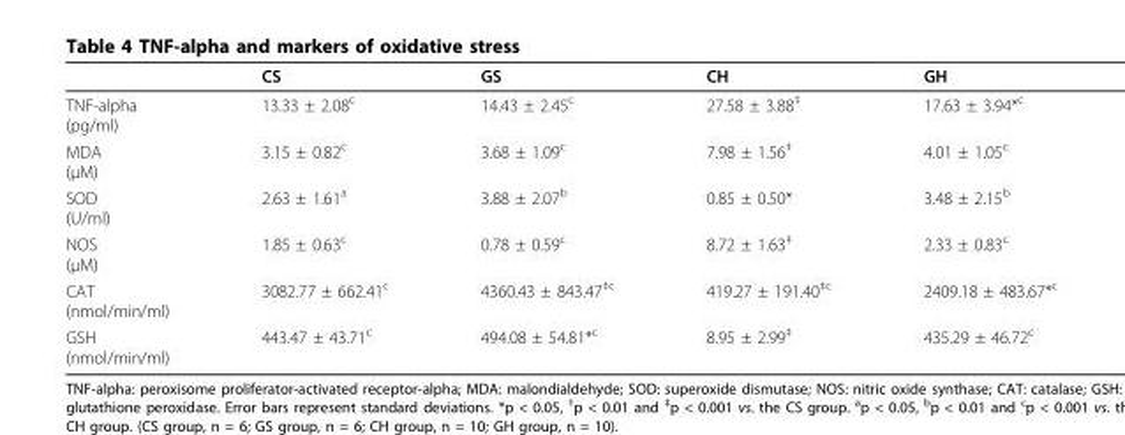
<table><thead><tr><td></td><td>CS</td><td>GS</td><td>CH</td><td>GH</td></tr></thead><tbody><tr><td>TNF-alpha (pg/ml)</td><td>13.33 ± 2.08<sup>c</sup></td><td>14.43 ± 2.45<sup>c</sup></td><td>27.58 ± 3.88<sup>‡</sup></td><td>17.63 ± 3.94*<sup>c</sup></td></tr><tr><td>MDA (μM)</td><td>3.15 ± 0.82<sup>c</sup></td><td>3.68 ± 1.09<sup>c</sup></td><td>7.98 ± 1.56<sup>‡</sup></td><td>4.01 ± 1.05<sup>c</sup></td></tr><tr><td>SOD (U/ml)</td><td>2.63 ± 1.61<sup>a</sup></td><td>3.88 ± 2.07<sup>b</sup></td><td>0.85 ± 0.50*</td><td>3.48 ± 2.15<sup>b</sup></td></tr><tr><td>NOS (μM)</td><td>1.85 ± 0.63<sup>c</sup></td><td>0.78 ± 0.59<sup>c</sup></td><td>8.72 ± 1.63<sup>‡</sup></td><td>2.33 ± 0.83<sup>c</sup></td></tr><tr><td>CAT (nmol/min/ml)</td><td>3082.77 ± 662.41<sup>c</sup></td><td>4360.43 ± 843.47<sup>‡c</sup></td><td>419.27 ± 191.40<sup>‡c</sup></td><td>2409.18 ± 483.67*<sup>c</sup></td></tr><tr><td>GSH (nmol/min/ml)</td><td>443.47 ± 43.71<sup>c</sup></td><td>494.08 ± 54.81*<sup>c</sup></td><td>8.95 ± 2.99<sup>‡</sup></td><td>435.29 ± 46.72<sup>c</sup></td></tr></tbody></table>